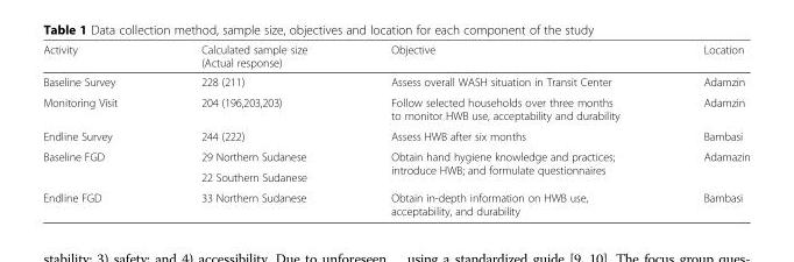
<table><thead><tr><td>Activity</td><td>Calculated sample size (Actual response)</td><td>Objective</td><td>Location</td></tr></thead><tbody><tr><td>Baseline Survey</td><td>228 (211)</td><td>Assess overall WASH situation in Transit Center</td><td>Adamzin</td></tr><tr><td>Monitoring Visit</td><td>204 (196,203,203)</td><td>Follow selected households over three months to monitor HWB use, acceptability and durability</td><td>Adamzin</td></tr><tr><td>Endline Survey</td><td>244 (222)</td><td>Assess HWB after six months</td><td>Bambasi</td></tr><tr><td rowspan="2">Baseline FGD</td><td>29 Northern Sudanese</td><td rowspan="2">Obtain hand hygiene knowledge and practices; introduce HWB; and formulate questionnaires</td><td rowspan="2">Adamazin</td></tr><tr><td>22 Southern Sudanese</td></tr><tr><td>Endline FGD</td><td>33 Northern Sudanese</td><td>Obtain in-depth information on HWB use, acceptability, and durability</td><td>Bambasi</td></tr></tbody></table>